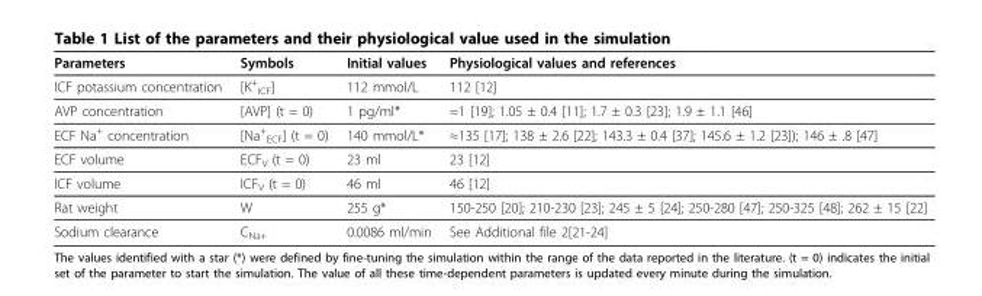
<table><thead><tr><td>Parameters</td><td>Symbols</td><td>Initial values</td><td>Physiological values and references</td></tr></thead><tbody><tr><td>ICF potassium concentration</td><td>[K<sup>+</sup> <sub>ICF</sub>]</td><td>112 mmol/L</td><td>112 [12]</td></tr><tr><td>AVP concentration</td><td>[AVP] (t = 0)</td><td>1 pg/ml*</td><td>≈1 [19]; 1.05 ± 0.4 [11]; 1.7 ± 0.3 [23]; 1.9 ± 1.1 [46]</td></tr><tr><td>ECF Na<sup>+</sup> concentration</td><td>[Na<sup>+</sup> <sub>ECF</sub>] (t = 0)</td><td>140 mmol/L*</td><td>≈135 [17]; 138 ± 2.6 [22]; 143.3 ± 0.4 [37]; 145.6 ± 1.2 [23]); 146 ± .8 [47]</td></tr><tr><td>ECF volume</td><td>ECF<sub>V</sub> (t = 0)</td><td>23 ml</td><td>23 [12]</td></tr><tr><td>ICF volume</td><td>ICF<sub>V</sub> (t = 0)</td><td>46 ml</td><td>46 [12]</td></tr><tr><td>Rat weight</td><td>W</td><td>255 g*</td><td>150-250 [20]; 210-230 [23]; 245 ± 5 [24]; 250-280 [47]; 250-325 [48]; 262 ± 15 [22]</td></tr><tr><td>Sodium clearance</td><td>C<sub>Na+</sub></td><td>0.0086 ml/min</td><td>See Additional file 2[21-24]</td></tr></tbody></table>